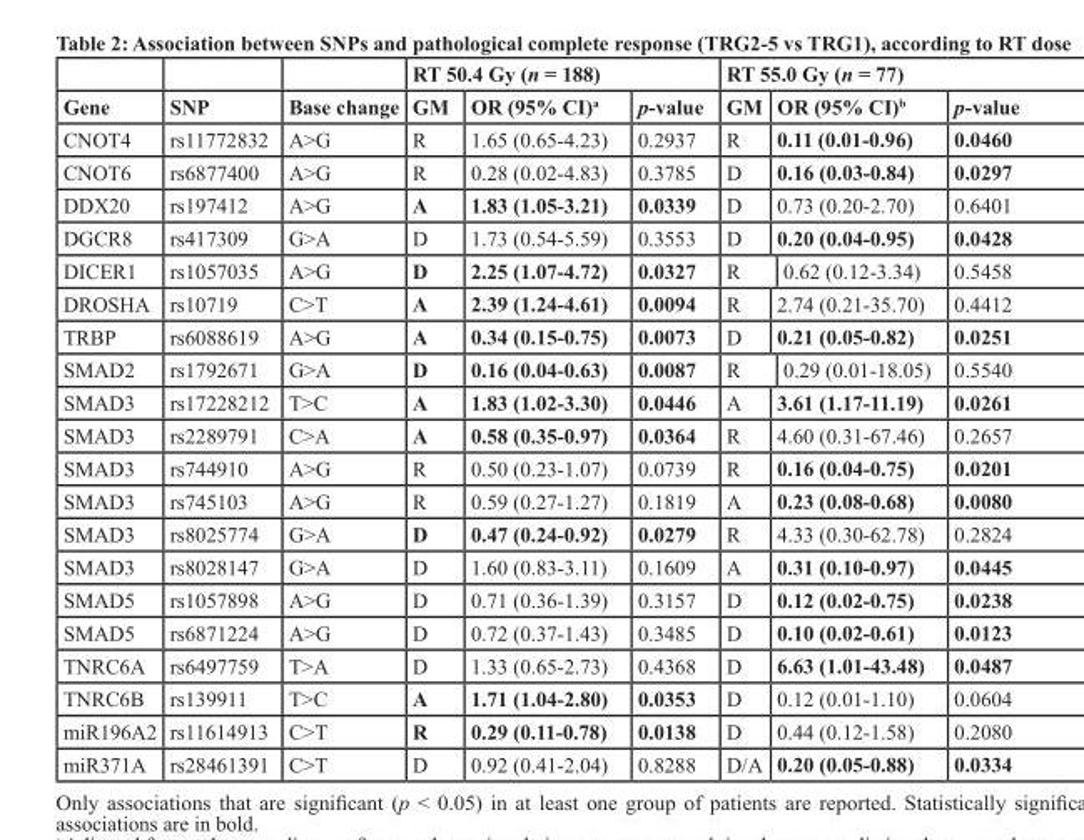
<table><thead><tr><td rowspan="2">Gene</td><td rowspan="2">SNP</td><td rowspan="2">Base change</td><td colspan="3">RT 50.4 Gy (n = 188)</td><td colspan="3">RT 55.0 Gy (n = 77)</td></tr><tr><td>GM</td><td>OR (95% CI)<sup>a</sup></td><td>p-value</td><td>GM</td><td>OR (95% CI)<sup>b</sup></td><td>p-value</td></tr></thead><tbody><tr><td>CNOT4</td><td>rs11772832</td><td>A&gt;G</td><td>R</td><td>1.65 (0.65-4.23)</td><td>0.2937</td><td>R</td><td>0.11 (0.01-0.96)</td><td>0.0460</td></tr><tr><td>CNOT6</td><td>rs6877400</td><td>A&gt;G</td><td>R</td><td>0.28 (0.02-4.83)</td><td>0.3785</td><td>D</td><td>0.16 (0.03-0.84)</td><td>0.0297</td></tr><tr><td>DDX20</td><td>rs197412</td><td>A&gt;G</td><td>A</td><td>1.83 (1.05-3.21)</td><td>0.0339</td><td>D</td><td>0.73 (0.20-2.70)</td><td>0.6401</td></tr><tr><td>DGCR8</td><td>rs417309</td><td>G&gt;A</td><td>D</td><td>1.73 (0.54-5.59)</td><td>0.3553</td><td>D</td><td>0.20 (0.04-0.95)</td><td>0.0428</td></tr><tr><td>DICER1</td><td>rs1057035</td><td>A&gt;G</td><td>D</td><td>2.25 (1.07-4.72)</td><td>0.0327</td><td>R</td><td>0.62 (0.12-3.34)</td><td>0.5458</td></tr><tr><td>DROSHA</td><td>rs10719</td><td>C&gt;T</td><td>A</td><td>2.39 (1.24-4.61)</td><td>0.0094</td><td>R</td><td>2.74 (0.21-35.70)</td><td>0.4412</td></tr><tr><td>TRBP</td><td>rs6088619</td><td>A&gt;G</td><td>A</td><td>0.34 (0.15-0.75)</td><td>0.0073</td><td>D</td><td>0.21 (0.05-0.82)</td><td>0.0251</td></tr><tr><td>SMAD2</td><td>rs1792671</td><td>G&gt;A</td><td>D</td><td>0.16 (0.04-0.63)</td><td>0.0087</td><td>R</td><td>0.29 (0.01-18.05)</td><td>0.5540</td></tr><tr><td>SMAD3</td><td>rs17228212</td><td>T&gt;C</td><td>A</td><td>1.83 (1.02-3.30)</td><td>0.0446</td><td>A</td><td>3.61 (1.17-11.19)</td><td>0.0261</td></tr><tr><td>SMAD3</td><td>rs2289791</td><td>C&gt;A</td><td>A</td><td>0.58 (0.35-0.97)</td><td>0.0364</td><td>R</td><td>4.60 (0.31-67.46)</td><td>0.2657</td></tr><tr><td>SMAD3</td><td>rs744910</td><td>A&gt;G</td><td>R</td><td>0.50 (0.23-1.07)</td><td>0.0739</td><td>R</td><td>0.16 (0.04-0.75)</td><td>0.0201</td></tr><tr><td>SMAD3</td><td>rs745103</td><td>A&gt;G</td><td>R</td><td>0.59 (0.27-1.27)</td><td>0.1819</td><td>A</td><td>0.23 (0.08-0.68)</td><td>0.0080</td></tr><tr><td>SMAD3</td><td>rs8025774</td><td>G&gt;A</td><td>D</td><td>0.47 (0.24-0.92)</td><td>0.0279</td><td>R</td><td>4.33 (0.30-62.78)</td><td>0.2824</td></tr><tr><td>SMAD3</td><td>rs8028147</td><td>G&gt;A</td><td>D</td><td>1.60 (0.83-3.11)</td><td>0.1609</td><td>A</td><td>0.31 (0.10-0.97)</td><td>0.0445</td></tr><tr><td>SMAD5</td><td>rs1057898</td><td>A&gt;G</td><td>D</td><td>0.71 (0.36-1.39)</td><td>0.3157</td><td>D</td><td>0.12 (0.02-0.75)</td><td>0.0238</td></tr><tr><td>SMAD5</td><td>rs6871224</td><td>A&gt;G</td><td>D</td><td>0.72 (0.37-1.43)</td><td>0.3485</td><td>D</td><td>0.10 (0.02-0.61)</td><td>0.0123</td></tr><tr><td>TNRC6A</td><td>rs6497759</td><td>T&gt;A</td><td>D</td><td>1.33 (0.65-2.73)</td><td>0.4368</td><td>D</td><td>6.63 (1.01-43.48)</td><td>0.0487</td></tr><tr><td>TNRC6B</td><td>rs139911</td><td>T&gt;C</td><td>A</td><td>1.71 (1.04-2.80)</td><td>0.0353</td><td>D</td><td>0.12 (0.01-1.10)</td><td>0.0604</td></tr><tr><td>miR196A2</td><td>rs11614913</td><td>C&gt;T</td><td>R</td><td>0.29 (0.11-0.78)</td><td>0.0138</td><td>D</td><td>0.44 (0.12-1.58)</td><td>0.2080</td></tr><tr><td>miR371A</td><td>rs28461391</td><td>C&gt;T</td><td>D</td><td>0.92 (0.41-2.04)</td><td>0.8288</td><td>D/A</td><td>0.20 (0.05-0.88)</td><td>0.0334</td></tr></tbody></table>